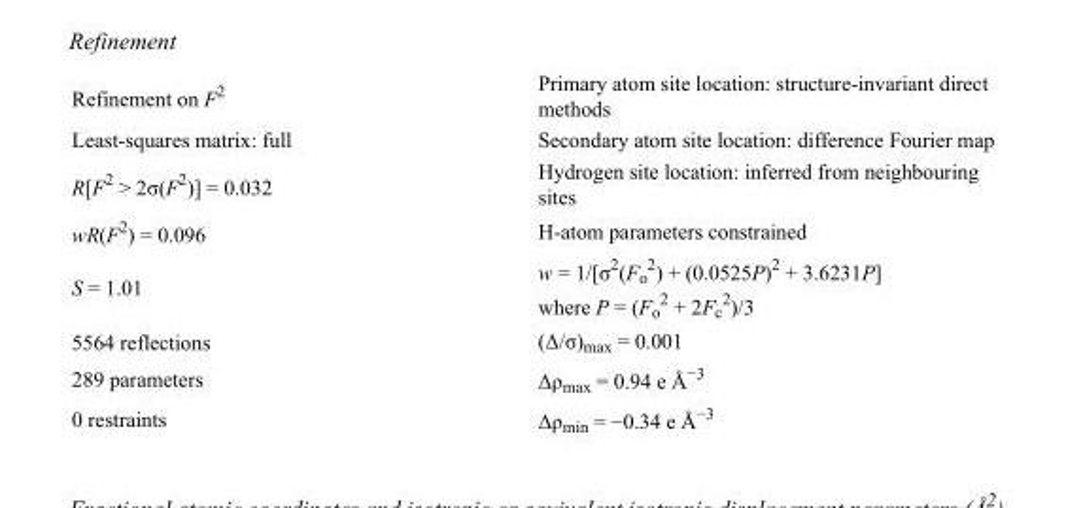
<table><tbody><tr><td>Refinement on F<sup>2</sup></td><td>Primary atom site location: structure-invariant direct methods</td></tr><tr><td>Least-squares matrix: full</td><td>Secondary atom site location: difference Fourier map</td></tr><tr><td>R[F<sup>2</sup> &gt; 2σ(F<sup>2</sup>)] = 0.032</td><td>Hydrogen site location: inferred from neighbouring sites</td></tr><tr><td>wR(F<sup>2</sup>) = 0.096</td><td>H-atom parameters constrained</td></tr><tr><td>S = 1.01</td><td>w = 1/[σ<sup>2</sup>(F<sub>o</sub> <sup>2</sup>) + (0.0525P)<sup>2</sup> + 3.6231P] where P = (F<sub>o</sub> <sup>2</sup> + 2F<sub>c</sub> <sup>2</sup>)/3</td></tr><tr><td>5564 reflections</td><td>(Δ/σ)<sub>max</sub> = 0.001</td></tr><tr><td>289 parameters</td><td>Δρ<sub>max</sub> = 0.94 e Å<sup>−3</sup></td></tr><tr><td>0 restraints</td><td>Δρ<sub>min</sub> = −0.34 e Å<sup>−3</sup></td></tr></tbody></table>